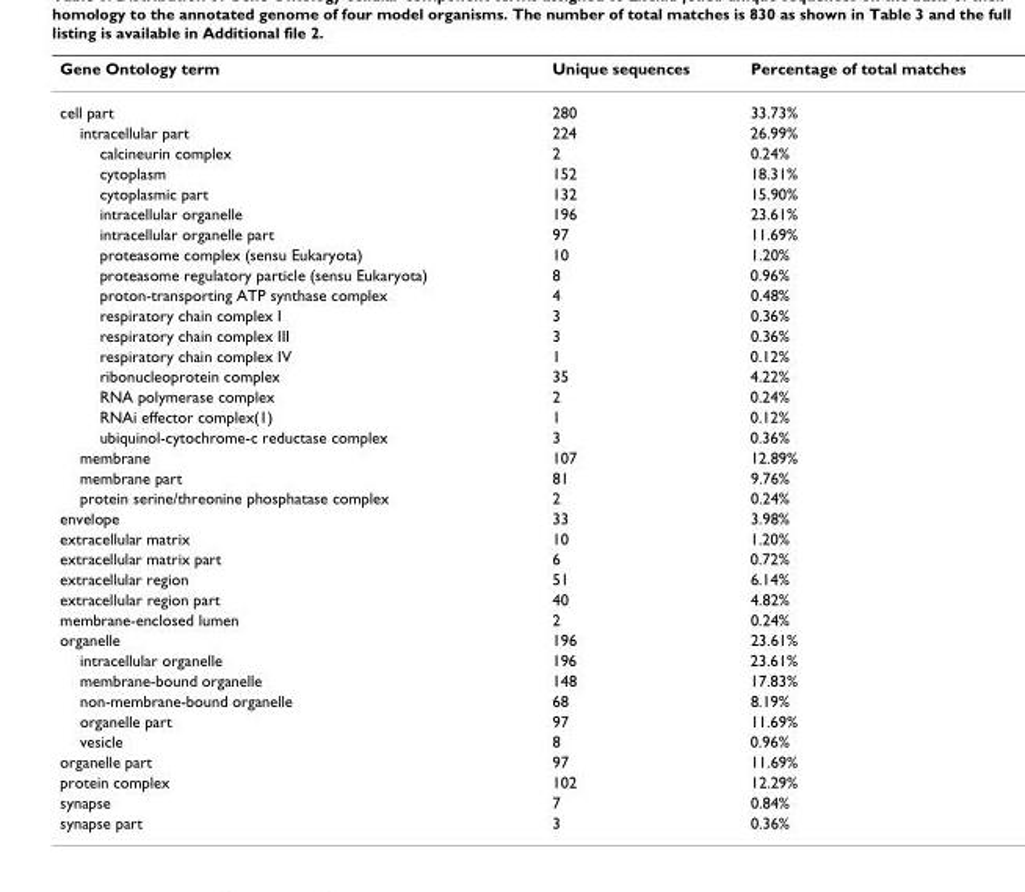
<table><thead><tr><td>Gene Ontology term</td><td>Unique sequences</td><td>Percentage of total matches</td></tr></thead><tbody><tr><td>cell part</td><td>280</td><td>33.73%</td></tr><tr><td>intracellular part</td><td>224</td><td>26.99%</td></tr><tr><td>calcineurin complex</td><td>2</td><td>0.24%</td></tr><tr><td>cytoplasm</td><td>152</td><td>18.31%</td></tr><tr><td>cytoplasmic part</td><td>132</td><td>15.90%</td></tr><tr><td>intracellular organelle</td><td>196</td><td>23.61%</td></tr><tr><td>intracellular organelle part</td><td>97</td><td>11.69%</td></tr><tr><td>proteasome complex (sensu Eukaryota)</td><td>10</td><td>1.20%</td></tr><tr><td>proteasome regulatory particle (sensu Eukaryota)</td><td>8</td><td>0.96%</td></tr><tr><td>proton-transporting ATP synthase complex</td><td>4</td><td>0.48%</td></tr><tr><td>respiratory chain complex I</td><td>3</td><td>0.36%</td></tr><tr><td>respiratory chain complex III</td><td>3</td><td>0.36%</td></tr><tr><td>respiratory chain complex IV</td><td>1</td><td>0.12%</td></tr><tr><td>ribonucleoprotein complex</td><td>35</td><td>4.22%</td></tr><tr><td>RNA polymerase complex</td><td>2</td><td>0.24%</td></tr><tr><td>RNAi effector complex(1)</td><td>1</td><td>0.12%</td></tr><tr><td>ubiquinol-cytochrome-c reductase complex</td><td>3</td><td>0.36%</td></tr><tr><td>membrane</td><td>107</td><td>12.89%</td></tr><tr><td>membrane part</td><td>81</td><td>9.76%</td></tr><tr><td>protein serine/threonine phosphatase complex</td><td>2</td><td>0.24%</td></tr><tr><td>envelope</td><td>33</td><td>3.98%</td></tr><tr><td>extracellular matrix</td><td>10</td><td>1.20%</td></tr><tr><td>extracellular matrix part</td><td>6</td><td>0.72%</td></tr><tr><td>extracellular region</td><td>51</td><td>6.14%</td></tr><tr><td>extracellular region part</td><td>40</td><td>4.82%</td></tr><tr><td>membrane-enclosed lumen</td><td>2</td><td>0.24%</td></tr><tr><td>organelle</td><td>196</td><td>23.61%</td></tr><tr><td>intracellular organelle</td><td>196</td><td>23.61%</td></tr><tr><td>membrane-bound organelle</td><td>148</td><td>17.83%</td></tr><tr><td>non-membrane-bound organelle</td><td>68</td><td>8.19%</td></tr><tr><td>organelle part</td><td>97</td><td>11.69%</td></tr><tr><td>vesicle</td><td>8</td><td>0.96%</td></tr><tr><td>organelle part</td><td>97</td><td>11.69%</td></tr><tr><td>protein complex</td><td>102</td><td>12.29%</td></tr><tr><td>synapse</td><td>7</td><td>0.84%</td></tr><tr><td>synapse part</td><td>3</td><td>0.36%</td></tr></tbody></table>